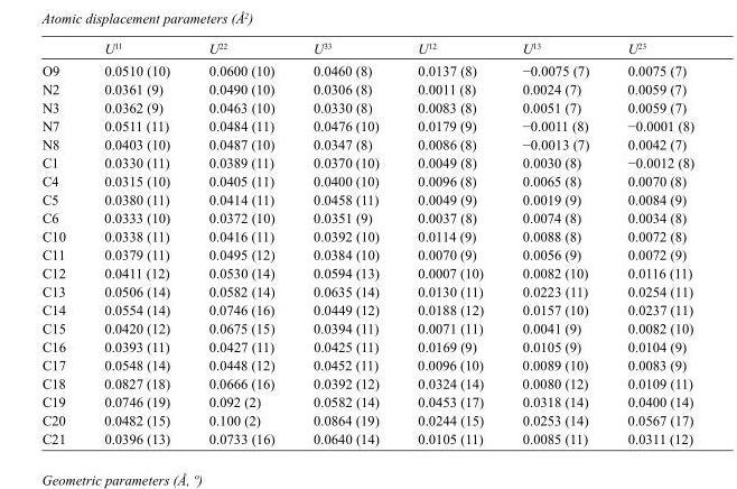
<table><thead><tr><td></td><td>U<sup>11</sup></td><td>U<sup>22</sup></td><td>U<sup>33</sup></td><td>U<sup>12</sup></td><td>U<sup>13</sup></td><td>U<sup>23</sup></td></tr></thead><tbody><tr><td>O9</td><td>0.0510 (10)</td><td>0.0600 (10)</td><td>0.0460 (8)</td><td>0.0137 (8)</td><td>−0.0075 (7)</td><td>0.0075 (7)</td></tr><tr><td>N2</td><td>0.0361 (9)</td><td>0.0490 (10)</td><td>0.0306 (8)</td><td>0.0011 (8)</td><td>0.0024 (7)</td><td>0.0059 (7)</td></tr><tr><td>N3</td><td>0.0362 (9)</td><td>0.0463 (10)</td><td>0.0330 (8)</td><td>0.0083 (8)</td><td>0.0051 (7)</td><td>0.0059 (7)</td></tr><tr><td>N7</td><td>0.0511 (11)</td><td>0.0484 (11)</td><td>0.0476 (10)</td><td>0.0179 (9)</td><td>−0.0011 (8)</td><td>−0.0001 (8)</td></tr><tr><td>N8</td><td>0.0403 (10)</td><td>0.0487 (10)</td><td>0.0347 (8)</td><td>0.0086 (8)</td><td>−0.0013 (7)</td><td>0.0042 (7)</td></tr><tr><td>C1</td><td>0.0330 (11)</td><td>0.0389 (11)</td><td>0.0370 (10)</td><td>0.0049 (8)</td><td>0.0030 (8)</td><td>−0.0012 (8)</td></tr><tr><td>C4</td><td>0.0315 (10)</td><td>0.0405 (11)</td><td>0.0400 (10)</td><td>0.0096 (8)</td><td>0.0065 (8)</td><td>0.0070 (8)</td></tr><tr><td>C5</td><td>0.0380 (11)</td><td>0.0414 (11)</td><td>0.0458 (11)</td><td>0.0049 (9)</td><td>0.0019 (9)</td><td>0.0084 (9)</td></tr><tr><td>C6</td><td>0.0333 (10)</td><td>0.0372 (10)</td><td>0.0351 (9)</td><td>0.0037 (8)</td><td>0.0074 (8)</td><td>0.0034 (8)</td></tr><tr><td>C10</td><td>0.0338 (11)</td><td>0.0416 (11)</td><td>0.0392 (10)</td><td>0.0114 (9)</td><td>0.0088 (8)</td><td>0.0072 (8)</td></tr><tr><td>C11</td><td>0.0379 (11)</td><td>0.0495 (12)</td><td>0.0384 (10)</td><td>0.0070 (9)</td><td>0.0056 (9)</td><td>0.0072 (9)</td></tr><tr><td>C12</td><td>0.0411 (12)</td><td>0.0530 (14)</td><td>0.0594 (13)</td><td>0.0007 (10)</td><td>0.0082 (10)</td><td>0.0116 (11)</td></tr><tr><td>C13</td><td>0.0506 (14)</td><td>0.0582 (14)</td><td>0.0635 (14)</td><td>0.0130 (11)</td><td>0.0223 (11)</td><td>0.0254 (11)</td></tr><tr><td>C14</td><td>0.0554 (14)</td><td>0.0746 (16)</td><td>0.0449 (12)</td><td>0.0188 (12)</td><td>0.0157 (10)</td><td>0.0237 (11)</td></tr><tr><td>C15</td><td>0.0420 (12)</td><td>0.0675 (15)</td><td>0.0394 (11)</td><td>0.0071 (11)</td><td>0.0041 (9)</td><td>0.0082 (10)</td></tr><tr><td>C16</td><td>0.0393 (11)</td><td>0.0427 (11)</td><td>0.0425 (11)</td><td>0.0169 (9)</td><td>0.0105 (9)</td><td>0.0104 (9)</td></tr><tr><td>C17</td><td>0.0548 (14)</td><td>0.0448 (12)</td><td>0.0452 (11)</td><td>0.0096 (10)</td><td>0.0089 (10)</td><td>0.0083 (9)</td></tr><tr><td>C18</td><td>0.0827 (18)</td><td>0.0666 (16)</td><td>0.0392 (12)</td><td>0.0324 (14)</td><td>0.0080 (12)</td><td>0.0109 (11)</td></tr><tr><td>C19</td><td>0.0746 (19)</td><td>0.092 (2)</td><td>0.0582 (14)</td><td>0.0453 (17)</td><td>0.0318 (14)</td><td>0.0400 (14)</td></tr><tr><td>C20</td><td>0.0482 (15)</td><td>0.100 (2)</td><td>0.0864 (19)</td><td>0.0244 (15)</td><td>0.0253 (14)</td><td>0.0567 (17)</td></tr><tr><td>C21</td><td>0.0396 (13)</td><td>0.0733 (16)</td><td>0.0640 (14)</td><td>0.0105 (11)</td><td>0.0085 (11)</td><td>0.0311 (12)</td></tr></tbody></table>